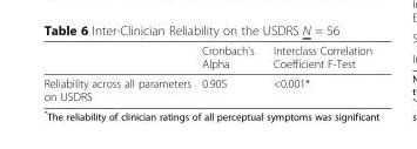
<table><thead><tr><td></td><td>Cronbach’s Alpha</td><td>Interclass Correlation Coefficient F-Test</td></tr></thead><tbody><tr><td>Reliability across all parameters on USDRS</td><td>0.905</td><td>&lt;0.001*</td></tr></tbody></table>